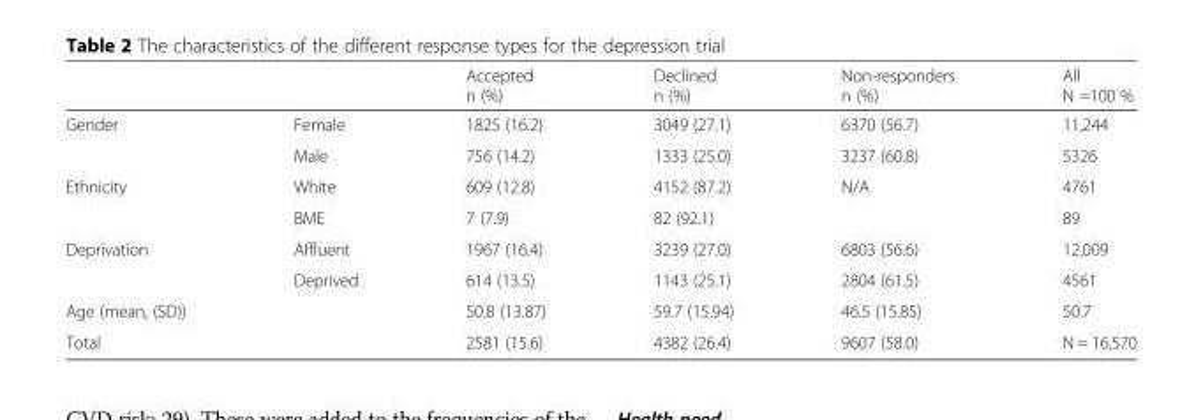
<table><thead><tr><td></td><td></td><td>Accepted n (%)</td><td>Declined n (%)</td><td>Non-responders n (%)</td><td>All N =100 %</td></tr></thead><tbody><tr><td rowspan="2">Gender</td><td>Female</td><td>1825 (16.2)</td><td>3049 (27.1)</td><td>6370 (56.7)</td><td>11,244</td></tr><tr><td>Male</td><td>756 (14.2)</td><td>1333 (25.0)</td><td>3237 (60.8)</td><td>5326</td></tr><tr><td rowspan="2">Ethnicity</td><td>White</td><td>609 (12.8)</td><td>4152 (87.2)</td><td>N/A</td><td>4761</td></tr><tr><td>BME</td><td>7 (7.9)</td><td>82 (92.1)</td><td></td><td>89</td></tr><tr><td rowspan="2">Deprivation</td><td>Affluent</td><td>1967 (16.4)</td><td>3239 (27.0)</td><td>6803 (56.6)</td><td>12,009</td></tr><tr><td>Deprived</td><td>614 (13.5)</td><td>1143 (25.1)</td><td>2804 (61.5)</td><td>4561</td></tr><tr><td>Age (mean, (SD))</td><td></td><td>50.8 (13.87)</td><td>59.7 (15.94)</td><td>46.5 (15.85)</td><td>50.7</td></tr><tr><td>Total</td><td></td><td>2581 (15.6)</td><td>4382 (26.4)</td><td>9607 (58.0)</td><td>N = 16,570</td></tr></tbody></table>